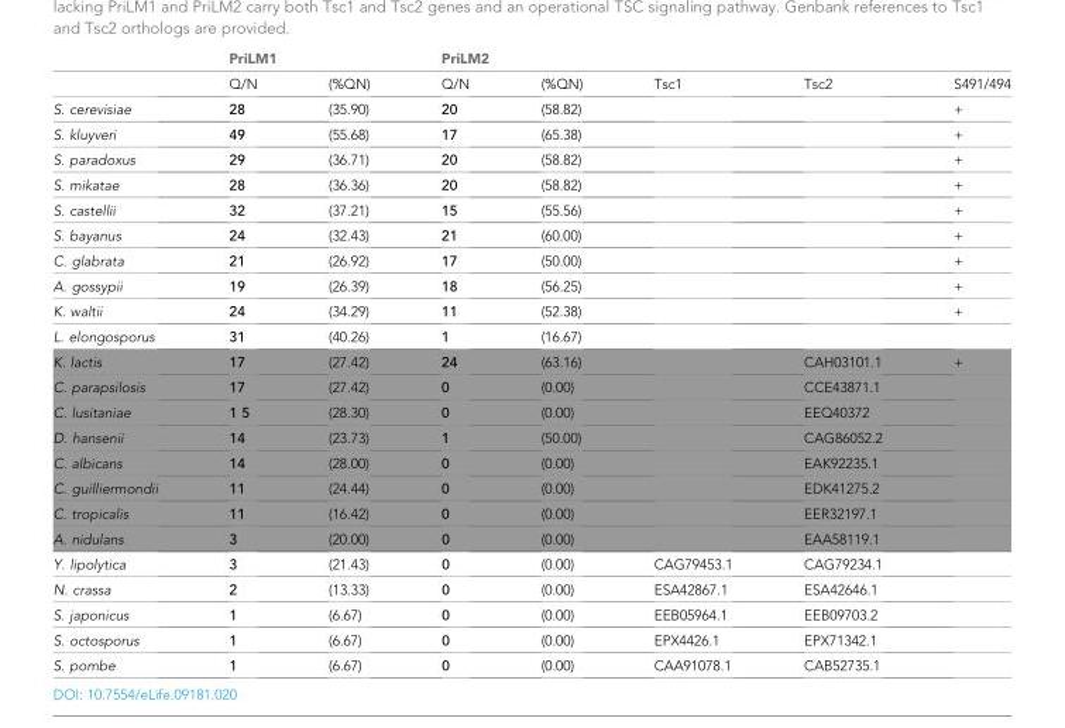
<table><thead><tr><td rowspan="2"></td><td colspan="2">PriLM1</td><td colspan="2">PriLM2</td><td rowspan="2">Tsc1</td><td rowspan="2">Tsc2</td><td rowspan="2">S491/494</td></tr><tr><td>Q/N</td><td>(%QN)</td><td>Q/N</td><td>(%QN)</td></tr></thead><tbody><tr><td>S. cerevisiae</td><td>28</td><td>(35.90)</td><td>20</td><td>(58.82)</td><td></td><td></td><td>+</td></tr><tr><td>S. kluyveri</td><td>49</td><td>(55.68)</td><td>17</td><td>(65.38)</td><td></td><td></td><td>+</td></tr><tr><td>S. paradoxus</td><td>29</td><td>(36.71)</td><td>20</td><td>(58.82)</td><td></td><td></td><td>+</td></tr><tr><td>S. mikatae</td><td>28</td><td>(36.36)</td><td>20</td><td>(58.82)</td><td></td><td></td><td>+</td></tr><tr><td>S. castellii</td><td>32</td><td>(37.21)</td><td>15</td><td>(55.56)</td><td></td><td></td><td>+</td></tr><tr><td>S. bayanus</td><td>24</td><td>(32.43)</td><td>21</td><td>(60.00)</td><td></td><td></td><td>+</td></tr><tr><td>C. glabrata</td><td>21</td><td>(26.92)</td><td>17</td><td>(50.00)</td><td></td><td></td><td>+</td></tr><tr><td>A. gossypii</td><td>19</td><td>(26.39)</td><td>18</td><td>(56.25)</td><td></td><td></td><td>+</td></tr><tr><td>K. waltii</td><td>24</td><td>(34.29)</td><td>11</td><td>(52.38)</td><td></td><td></td><td>+</td></tr><tr><td>L. elongosporus</td><td>31</td><td>(40.26)</td><td>1</td><td>(16.67)</td><td></td><td></td><td></td></tr><tr><td>K. lactis</td><td>17</td><td>(27.42)</td><td>24</td><td>(63.16)</td><td></td><td>CAH03101.1</td><td>+</td></tr><tr><td>C. parapsilosis</td><td>17</td><td>(27.42)</td><td>0</td><td>(0.00)</td><td></td><td>CCE43871.1</td><td></td></tr><tr><td>C. lusitaniae</td><td>1 5</td><td>(28.30)</td><td>0</td><td>(0.00)</td><td></td><td>EEQ40372</td><td></td></tr><tr><td>D. hansenii</td><td>14</td><td>(23.73)</td><td>1</td><td>(50.00)</td><td></td><td>CAG86052.2</td><td></td></tr><tr><td>C. albicans</td><td>14</td><td>(28.00)</td><td>0</td><td>(0.00)</td><td></td><td>EAK92235.1</td><td></td></tr><tr><td>C. guilliermondii</td><td>11</td><td>(24.44)</td><td>0</td><td>(0.00)</td><td></td><td>EDK41275.2</td><td></td></tr><tr><td>C. tropicalis</td><td>11</td><td>(16.42)</td><td>0</td><td>(0.00)</td><td></td><td>EER32197.1</td><td></td></tr><tr><td>A. nidulans</td><td>3</td><td>(20.00)</td><td>0</td><td>(0.00)</td><td></td><td>EAA58119.1</td><td></td></tr><tr><td>Y. lipolytica</td><td>3</td><td>(21.43)</td><td>0</td><td>(0.00)</td><td>CAG79453.1</td><td>CAG79234.1</td><td></td></tr><tr><td>N. crassa</td><td>2</td><td>(13.33)</td><td>0</td><td>(0.00)</td><td>ESA42867.1</td><td>ESA42646.1</td><td></td></tr><tr><td>S. japonicus</td><td>1</td><td>(6.67)</td><td>0</td><td>(0.00)</td><td>EEB05964.1</td><td>EEB09703.2</td><td></td></tr><tr><td>S. octosporus</td><td>1</td><td>(6.67)</td><td>0</td><td>(0.00)</td><td>EPX4426.1</td><td>EPX71342.1</td><td></td></tr><tr><td>S. pombe</td><td>1</td><td>(6.67)</td><td>0</td><td>(0.00)</td><td>CAA91078.1</td><td>CAB52735.1</td><td></td></tr></tbody></table>